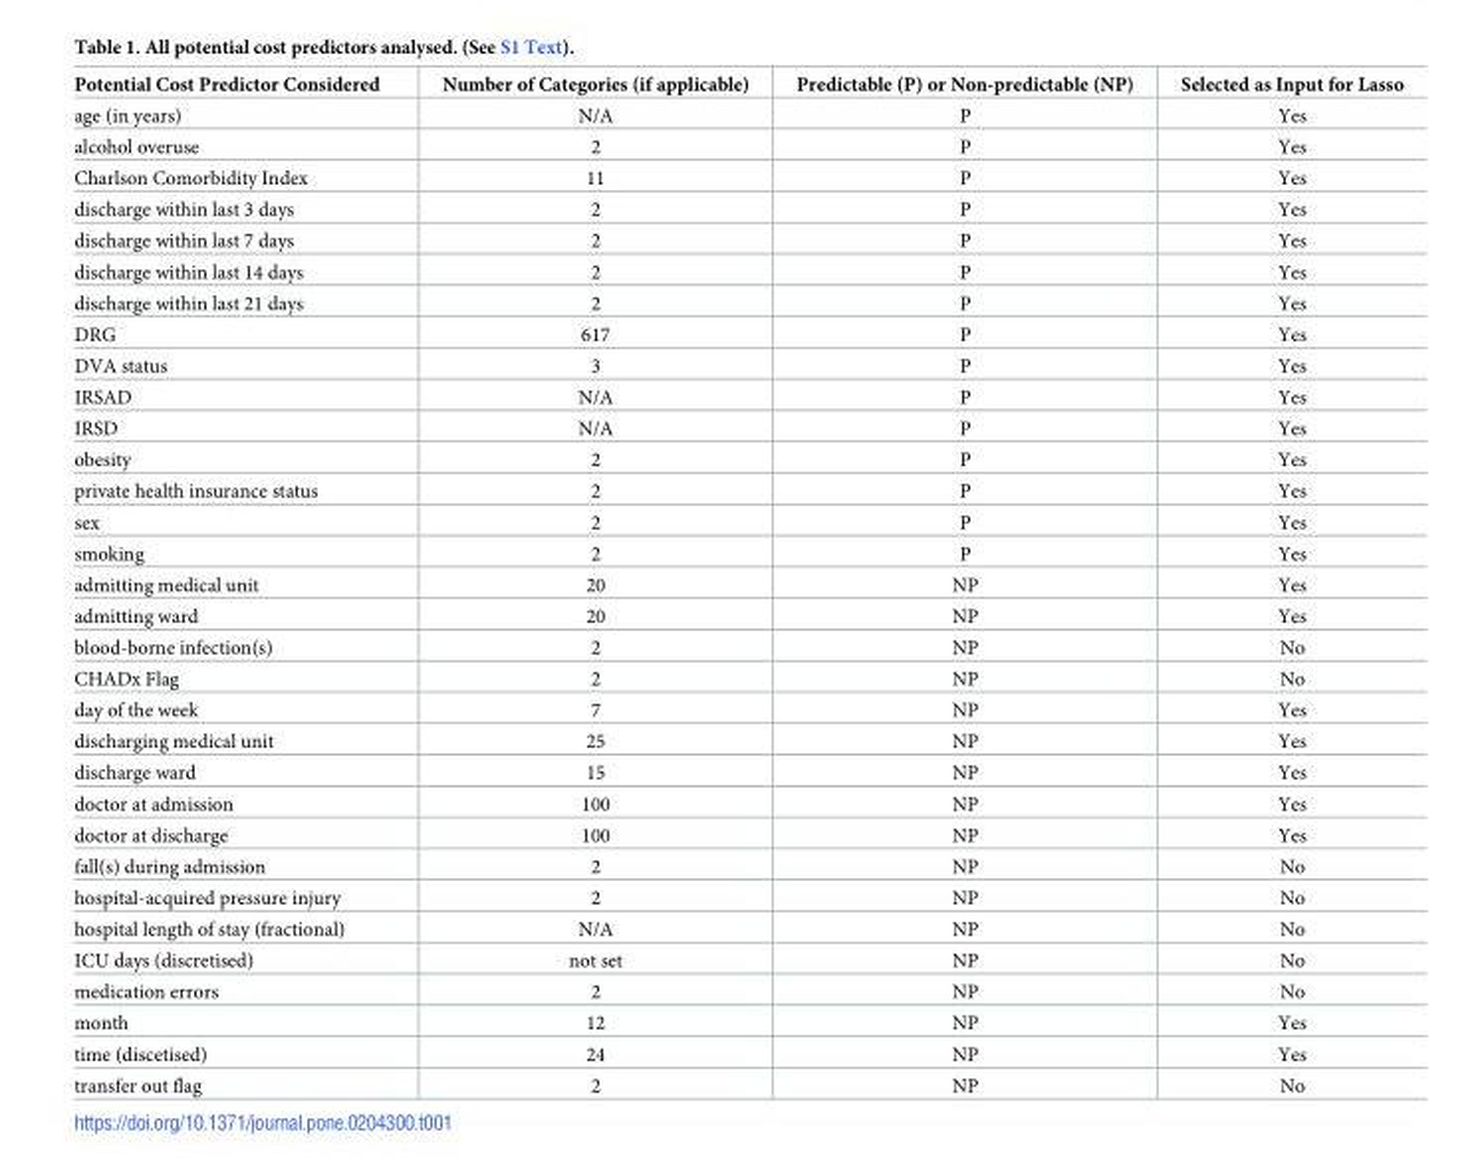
<table><thead><tr><td>Potential Cost Predictor Considered</td><td>Number of Categories (if applicable)</td><td>Predictable (P) or Non-predictable (NP)</td><td>Selected as Input for Lasso</td></tr></thead><tbody><tr><td>age (in years)</td><td>N/A</td><td>P</td><td>Yes</td></tr><tr><td>alcohol overuse</td><td>2</td><td>P</td><td>Yes</td></tr><tr><td>Charlson Comorbidity Index</td><td>11</td><td>P</td><td>Yes</td></tr><tr><td>discharge within last 3 days</td><td>2</td><td>P</td><td>Yes</td></tr><tr><td>discharge within last 7 days</td><td>2</td><td>P</td><td>Yes</td></tr><tr><td>discharge within last 14 days</td><td>2</td><td>P</td><td>Yes</td></tr><tr><td>discharge within last 21 days</td><td>2</td><td>P</td><td>Yes</td></tr><tr><td>DRG</td><td>617</td><td>P</td><td>Yes</td></tr><tr><td>DVA status</td><td>3</td><td>P</td><td>Yes</td></tr><tr><td>IRSAD</td><td>N/A</td><td>P</td><td>Yes</td></tr><tr><td>IRSD</td><td>N/A</td><td>P</td><td>Yes</td></tr><tr><td>obesity</td><td>2</td><td>P</td><td>Yes</td></tr><tr><td>private health insurance status</td><td>2</td><td>P</td><td>Yes</td></tr><tr><td>sex</td><td>2</td><td>P</td><td>Yes</td></tr><tr><td>smoking</td><td>2</td><td>P</td><td>Yes</td></tr><tr><td>admitting medical unit</td><td>20</td><td>NP</td><td>Yes</td></tr><tr><td>admitting ward</td><td>20</td><td>NP</td><td>Yes</td></tr><tr><td>blood-borne infection(s)</td><td>2</td><td>NP</td><td>No</td></tr><tr><td>CHADx Flag</td><td>2</td><td>NP</td><td>No</td></tr><tr><td>day of the week</td><td>7</td><td>NP</td><td>Yes</td></tr><tr><td>discharging medical unit</td><td>25</td><td>NP</td><td>Yes</td></tr><tr><td>discharge ward</td><td>15</td><td>NP</td><td>Yes</td></tr><tr><td>doctor at admission</td><td>100</td><td>NP</td><td>Yes</td></tr><tr><td>doctor at discharge</td><td>100</td><td>NP</td><td>Yes</td></tr><tr><td>fall(s) during admission</td><td>2</td><td>NP</td><td>No</td></tr><tr><td>hospital-acquired pressure injury</td><td>2</td><td>NP</td><td>No</td></tr><tr><td>hospital length of stay (fractional)</td><td>N/A</td><td>NP</td><td>No</td></tr><tr><td>ICU days (discretised)</td><td>not set</td><td>NP</td><td>No</td></tr><tr><td>medication errors</td><td>2</td><td>NP</td><td>No</td></tr><tr><td>month</td><td>12</td><td>NP</td><td>Yes</td></tr><tr><td>time (discetised)</td><td>24</td><td>NP</td><td>Yes</td></tr><tr><td>transfer out flag</td><td>2</td><td>NP</td><td>No</td></tr></tbody></table>